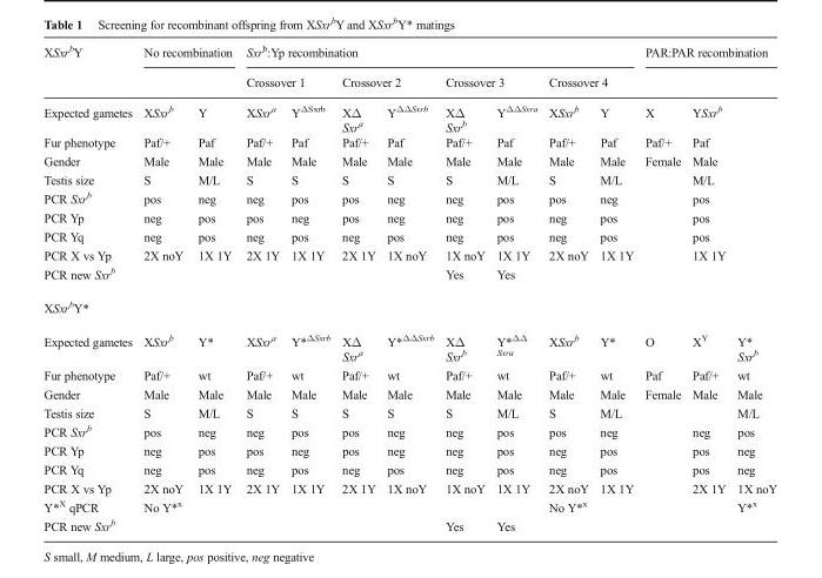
<table><thead><tr><td rowspan="3">XSxrbY Expected gametes</td><td colspan="2">No recombination</td><td colspan="8">Sxr<sup>b</sup>:Yp recombination</td><td colspan="3">PAR:PAR recombination</td></tr><tr><td rowspan="2">XSxr<sup>b</sup></td><td rowspan="2">Y</td><td colspan="2">Crossover 1</td><td colspan="2">Crossover 2</td><td colspan="2">Crossover 3</td><td colspan="2">Crossover 4</td><td rowspan="2">X</td><td></td><td></td></tr><tr><td>XSxr<sup>a</sup></td><td>Y<sup>ΔSxrb</sup></td><td>XΔ Sxr<sup>a</sup></td><td>Y<sup>ΔΔSxrb</sup></td><td>XΔ Sxr<sup>b</sup></td><td>Y<sup>ΔΔSxra</sup></td><td>XSxr<sup>b</sup></td><td>Y</td><td colspan="2">YSxrb</td></tr></thead><tbody><tr><td>Fur phenotype</td><td>Paf/+</td><td>Paf</td><td>Paf/+</td><td>Paf</td><td>Paf/+</td><td>Paf</td><td>Paf/+</td><td>Paf</td><td>Paf/+</td><td>Paf</td><td>Paf/+</td><td colspan="2">Paf</td></tr><tr><td>Gender</td><td>Male</td><td>Male</td><td>Male</td><td>Male</td><td>Male</td><td>Male</td><td>Male</td><td>Male</td><td>Male</td><td>Male</td><td>Female</td><td colspan="2">Male</td></tr><tr><td>Testis size</td><td>S</td><td>M/L</td><td>S</td><td>S</td><td>S</td><td>S</td><td>S</td><td>M/L</td><td>S</td><td>M/L</td><td></td><td colspan="2">M/L</td></tr><tr><td>PCR Sxr<sup>b</sup></td><td>pos</td><td>neg</td><td>neg</td><td>pos</td><td>pos</td><td>neg</td><td>neg</td><td>pos</td><td>pos</td><td>neg</td><td></td><td colspan="2">pos</td></tr><tr><td>PCR Yp</td><td>neg</td><td>pos</td><td>pos</td><td>neg</td><td>pos</td><td>neg</td><td>neg</td><td>pos</td><td>neg</td><td>pos</td><td></td><td colspan="2">pos</td></tr><tr><td>PCR Yq</td><td>neg</td><td>pos</td><td>neg</td><td>pos</td><td>neg</td><td>pos</td><td>neg</td><td>pos</td><td>neg</td><td>pos</td><td></td><td colspan="2">pos</td></tr><tr><td>PCR X vs Yp</td><td>2X noY</td><td>1X 1Y</td><td>2X 1Y</td><td>1X 1Y</td><td>2X 1Y</td><td>1X noY</td><td>1X noY</td><td>1X 1Y</td><td>2X noY</td><td>1X 1Y</td><td></td><td colspan="2">1X 1Y</td></tr><tr><td>PCR new Sxr<sup>b</sup></td><td></td><td></td><td></td><td></td><td></td><td></td><td>Yes</td><td>Yes</td><td></td><td></td><td></td><td colspan="2"></td></tr><tr><td colspan="14">XSxrbY*</td></tr><tr><td>Expected gametes</td><td>XSxr<sup>b</sup></td><td>Y*</td><td>XSxr<sup>a</sup></td><td>Y*<sup>ΔSxrb</sup></td><td>XΔ Sxr<sup>a</sup></td><td>Y*<sup>ΔΔSxrb</sup></td><td>XΔ Sxr<sup>b</sup></td><td>Y*<sup>ΔΔ Sxra</sup></td><td>XSxr<sup>b</sup></td><td>Y*</td><td>O</td><td>X<sup>Y</sup></td><td>Y* Sxr<sup>b</sup></td></tr><tr><td>Fur phenotype</td><td>Paf/+</td><td>wt</td><td>Paf/+</td><td>wt</td><td>Paf/+</td><td>wt</td><td>Paf/+</td><td>wt</td><td>Paf/+</td><td>wt</td><td>Paf</td><td>Paf/+</td><td>wt</td></tr><tr><td>Gender</td><td>Male</td><td>Male</td><td>Male</td><td>Male</td><td>Male</td><td>Male</td><td>Male</td><td>Male</td><td>Male</td><td>Male</td><td>Female</td><td>Male</td><td>Male</td></tr><tr><td>Testis size</td><td>S</td><td>M/L</td><td>S</td><td>S</td><td>S</td><td>S</td><td>S</td><td>M/L</td><td>S</td><td>M/L</td><td></td><td></td><td>M/L</td></tr><tr><td>PCR Sxr<sup>b</sup></td><td>pos</td><td>neg</td><td>neg</td><td>pos</td><td>pos</td><td>neg</td><td>neg</td><td>pos</td><td>pos</td><td>neg</td><td></td><td>neg</td><td>pos</td></tr><tr><td>PCR Yp</td><td>neg</td><td>pos</td><td>pos</td><td>neg</td><td>pos</td><td>neg</td><td>neg</td><td>pos</td><td>neg</td><td>pos</td><td></td><td>pos</td><td>neg</td></tr><tr><td>PCR Yq</td><td>neg</td><td>pos</td><td>neg</td><td>pos</td><td>neg</td><td>pos</td><td>neg</td><td>pos</td><td>neg</td><td>pos</td><td></td><td>pos</td><td>neg</td></tr><tr><td>PCR X vs Yp</td><td>2X noY</td><td>1X 1Y</td><td>2X 1Y</td><td>1X 1Y</td><td>2X 1Y</td><td>1X noY</td><td>1X noY</td><td>1X 1Y</td><td>2X noY</td><td>1X 1Y</td><td></td><td>2X 1Y</td><td>1X noY</td></tr><tr><td>Y*<sup>X</sup> qPCR</td><td>No Y*<sup>x</sup></td><td></td><td></td><td></td><td></td><td></td><td></td><td></td><td>No Y*<sup>x</sup></td><td></td><td></td><td></td><td>Y*<sup>x</sup></td></tr><tr><td>PCR new Sxr<sup>b</sup></td><td></td><td></td><td></td><td></td><td></td><td></td><td>Yes</td><td>Yes</td><td></td><td></td><td></td><td></td><td></td></tr></tbody></table>